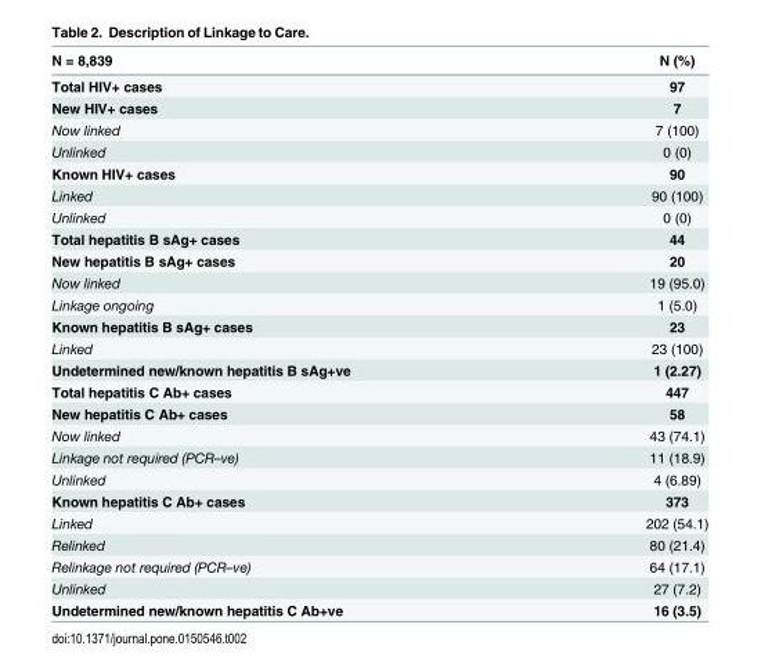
<table><thead><tr><td>N = 8,839</td><td>N (%)</td></tr></thead><tbody><tr><td>Total HIV+ cases</td><td>97</td></tr><tr><td>New HIV+ cases</td><td>7</td></tr><tr><td>Now linked</td><td>7 (100)</td></tr><tr><td>Unlinked</td><td>0 (0)</td></tr><tr><td>Known HIV+ cases</td><td>90</td></tr><tr><td>Linked</td><td>90 (100)</td></tr><tr><td>Unlinked</td><td>0 (0)</td></tr><tr><td>Total hepatitis B sAg+ cases</td><td>44</td></tr><tr><td>New hepatitis B sAg+ cases</td><td>20</td></tr><tr><td>Now linked</td><td>19 (95.0)</td></tr><tr><td>Linkage ongoing</td><td>1 (5.0)</td></tr><tr><td>Known hepatitis B sAg+ cases</td><td>23</td></tr><tr><td>Linked</td><td>23 (100)</td></tr><tr><td>Undetermined new/known hepatitis B sAg+ve</td><td>1 (2.27)</td></tr><tr><td>Total hepatitis C Ab+ cases</td><td>447</td></tr><tr><td>New hepatitis C Ab+ cases</td><td>58</td></tr><tr><td>Now linked</td><td>43 (74.1)</td></tr><tr><td>Linkage not required (PCR–ve)</td><td>11 (18.9)</td></tr><tr><td>Unlinked</td><td>4 (6.89)</td></tr><tr><td>Known hepatitis C Ab+ cases</td><td>373</td></tr><tr><td>Linked</td><td>202 (54.1)</td></tr><tr><td>Relinked</td><td>80 (21.4)</td></tr><tr><td>Relinkage not required (PCR–ve)</td><td>64 (17.1)</td></tr><tr><td>Unlinked</td><td>27 (7.2)</td></tr><tr><td>Undetermined new/known hepatitis C Ab+ve</td><td>16 (3.5)</td></tr></tbody></table>